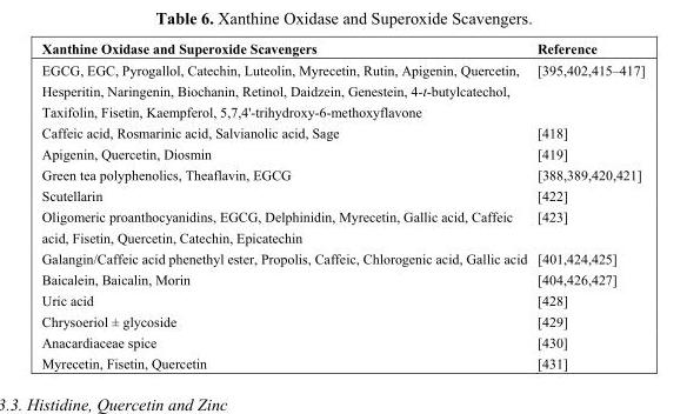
<table><thead><tr><td>Xanthine Oxidase and Superoxide Scavengers</td><td>Reference</td></tr></thead><tbody><tr><td>EGCG, EGC, Pyrogallol, Catechin, Luteolin, Myrecetin, Rutin, Apigenin, Quercetin, Hesperitin, Naringenin, Biochanin, Retinol, Daidzein, Genestein, 4-t-butylcatechol, Taxifolin, Fisetin, Kaempferol, 5,7,4&#x27;-trihydroxy-6-methoxyflavone</td><td>[395,402,415–417]</td></tr><tr><td>Caffeic acid, Rosmarinic acid, Salvianolic acid, Sage</td><td>[418]</td></tr><tr><td>Apigenin, Quercetin, Diosmin</td><td>[419]</td></tr><tr><td>Green tea polyphenolics, Theaflavin, EGCG</td><td>[388,389,420,421]</td></tr><tr><td>Scutellarin</td><td>[422]</td></tr><tr><td>Oligomeric proanthocyanidins, EGCG, Delphinidin, Myrecetin, Gallic acid, Caffeic acid, Fisetin, Quercetin, Catechin, Epicatechin</td><td>[423]</td></tr><tr><td>Galangin/Caffeic acid phenethyl ester, Propolis, Caffeic, Chlorogenic acid, Gallic acid</td><td>[401,424,425]</td></tr><tr><td>Baicalein, Baicalin, Morin</td><td>[404,426,427]</td></tr><tr><td>Uric acid</td><td>[428]</td></tr><tr><td>Chrysoeriol ± glycoside</td><td>[429]</td></tr><tr><td>Anacardiaceae spice</td><td>[430]</td></tr><tr><td>Myrecetin, Fisetin, Quercetin</td><td>[431]</td></tr></tbody></table>